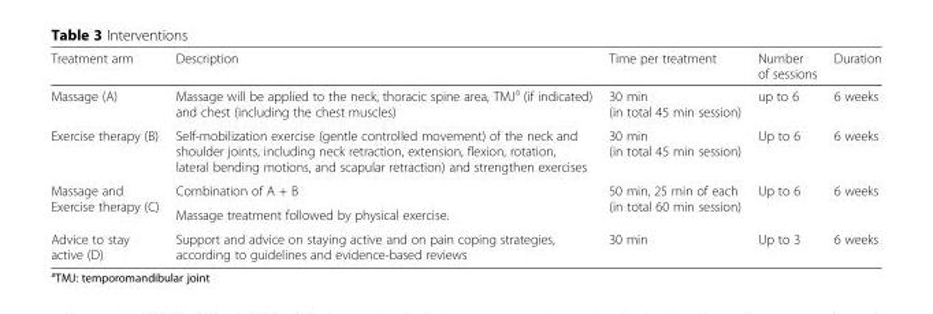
<table><thead><tr><td>Treatment arm</td><td>Description</td><td>Time per treatment</td><td>Number of sessions</td><td>Duration</td></tr></thead><tbody><tr><td>Massage (A)</td><td>Massage will be applied to the neck, thoracic spine area, TMJ<sup>a</sup> (if indicated) and chest (including the chest muscles)</td><td>30 min (in total 45 min session)</td><td>up to 6</td><td>6 weeks</td></tr><tr><td>Exercise therapy (B)</td><td>Self-mobilization exercise (gentle controlled movement) of the neck and shoulder joints, including neck retraction, extension, flexion, rotation, lateral bending motions, and scapular retraction) and strengthen exercises</td><td>30 min (in total 45 min session)</td><td>Up to 6</td><td>6 weeks</td></tr><tr><td rowspan="2">Massage and Exercise therapy (C)</td><td>Combination of A + B</td><td rowspan="2">50 min, 25 min of each (in total 60 min session)</td><td rowspan="2">Up to 6</td><td rowspan="2">6 weeks</td></tr><tr><td>Massage treatment followed by physical exercise.</td></tr><tr><td>Advice to stay active (D)</td><td>Support and advice on staying active and on pain coping strategies, according to guidelines and evidence-based reviews</td><td>30 min</td><td>Up to 3</td><td>6 weeks</td></tr></tbody></table>